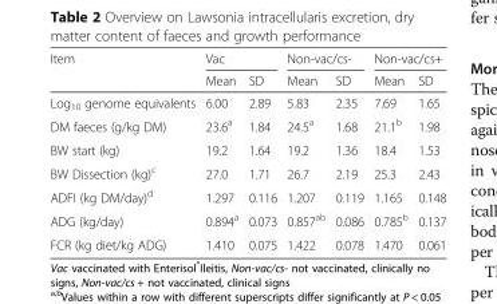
<table><thead><tr><td rowspan="2">Item</td><td colspan="2">Vac</td><td colspan="2">Non-vac/cs-</td><td colspan="2">Non-vac/cs+</td></tr><tr><td>Mean</td><td>SD</td><td>Mean</td><td>SD</td><td>Mean</td><td>SD</td></tr></thead><tbody><tr><td>Log<sub>10</sub> genome equivalents</td><td>6.00</td><td>2.89</td><td>5.83</td><td>2.35</td><td>7.69</td><td>1.65</td></tr><tr><td>DM faeces (g/kg DM)</td><td>23.6<sup>a</sup></td><td>1.84</td><td>24.5<sup>a</sup></td><td>1.68</td><td>21.1<sup>b</sup></td><td>1.98</td></tr><tr><td>BW start (kg)</td><td>19.2</td><td>1.64</td><td>19.2</td><td>1.36</td><td>18.4</td><td>1.53</td></tr><tr><td>BW Dissection (kg)<sup>c</sup></td><td>27.0</td><td>1.71</td><td>26.7</td><td>2.19</td><td>25.3</td><td>2.43</td></tr><tr><td>ADFI (kg DM/day)<sup>d</sup></td><td>1.297</td><td>0.116</td><td>1.207</td><td>0.119</td><td>1.165</td><td>0.148</td></tr><tr><td>ADG (kg/day)</td><td>0.894<sup>a</sup></td><td>0.073</td><td>0.857<sup>ab</sup></td><td>0.086</td><td>0.785<sup>b</sup></td><td>0.137</td></tr><tr><td>FCR (kg diet/kg ADG)</td><td>1.410</td><td>0.075</td><td>1.422</td><td>0.078</td><td>1.470</td><td>0.061</td></tr></tbody></table>